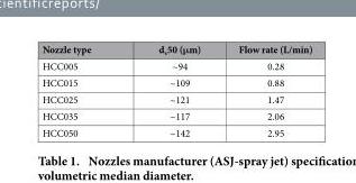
<table><thead><tr><td>Nozzle type</td><td>d<sub>v</sub>50 (μm)</td><td>Flow rate (L/min)</td></tr></thead><tbody><tr><td>HCC005</td><td>~94</td><td>0.28</td></tr><tr><td>HCC015</td><td>~109</td><td>0.88</td></tr><tr><td>HCC025</td><td>~121</td><td>1.47</td></tr><tr><td>HCC035</td><td>~117</td><td>2.06</td></tr><tr><td>HCC050</td><td>~142</td><td>2.95</td></tr></tbody></table>